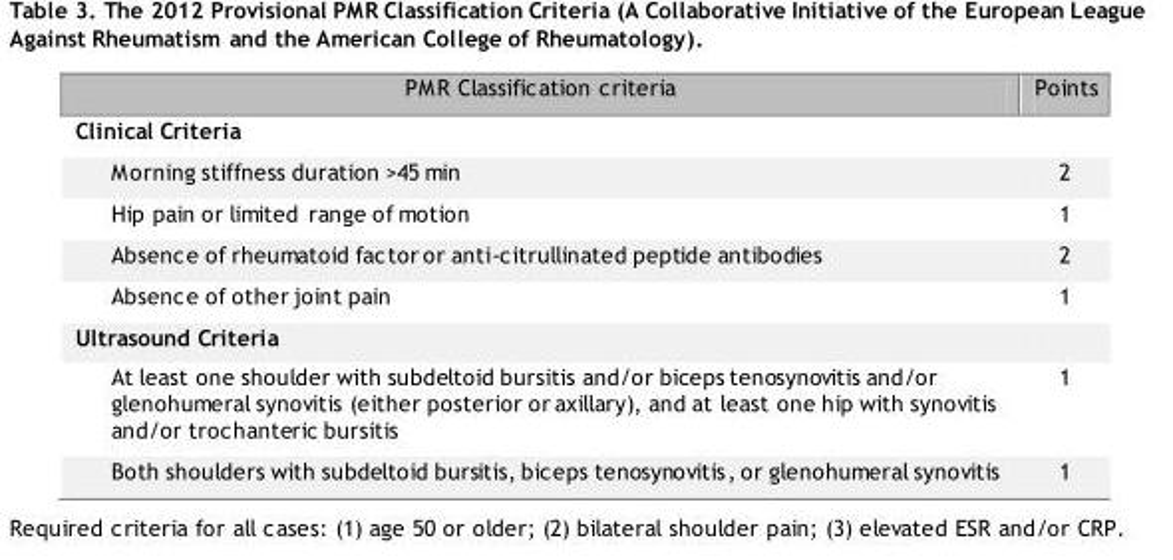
<table><thead><tr><td>PMR Classification criteria</td><td>Points</td></tr></thead><tbody><tr><td colspan="2">Clinical Criteria</td></tr><tr><td>Morning stiffness duration &gt;45 min</td><td>2</td></tr><tr><td>Hip pain or limited range of motion</td><td>1</td></tr><tr><td>Absence of rheumatoid factor or anti-citrullinated peptide antibodies</td><td>2</td></tr><tr><td>Absence of other joint pain</td><td>1</td></tr><tr><td colspan="2">Ultrasound Criteria</td></tr><tr><td>At least one shoulder with subdeltoid bursitis and/or biceps tenosynovitis and/or glenohumeral synovitis (either posterior or axillary), and at least one hip with synovitis and/or trochanteric bursitis</td><td>1</td></tr><tr><td>Both shoulders with subdeltoid bursitis, biceps tenosynovitis, or glenohumeral synovitis</td><td>1</td></tr></tbody></table>